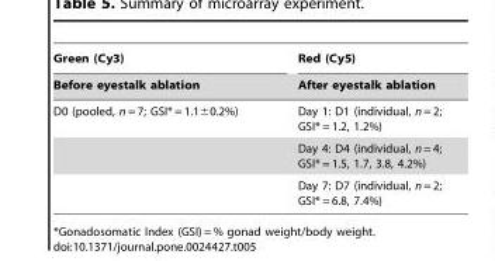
<table><thead><tr><td rowspan="2">Green (Cy3) Before eyestalk ablation</td><td rowspan="2">Red (Cy5) After eyestalk ablation</td></tr><tr></tr></thead><tbody><tr><td rowspan="3">D0 (pooled, n = 7; GSI* = 1.1±0.2%)</td><td>Day 1: D1 (individual, n = 2; GSI* = 1.2, 1.2%)</td></tr><tr><td>Day 4: D4 (individual, n = 4; GSI* = 1.5, 1.7, 3.8, 4.2%)</td></tr><tr><td>Day 7: D7 (individual, n = 2; GSI* = 6.8, 7.4%)</td></tr></tbody></table>